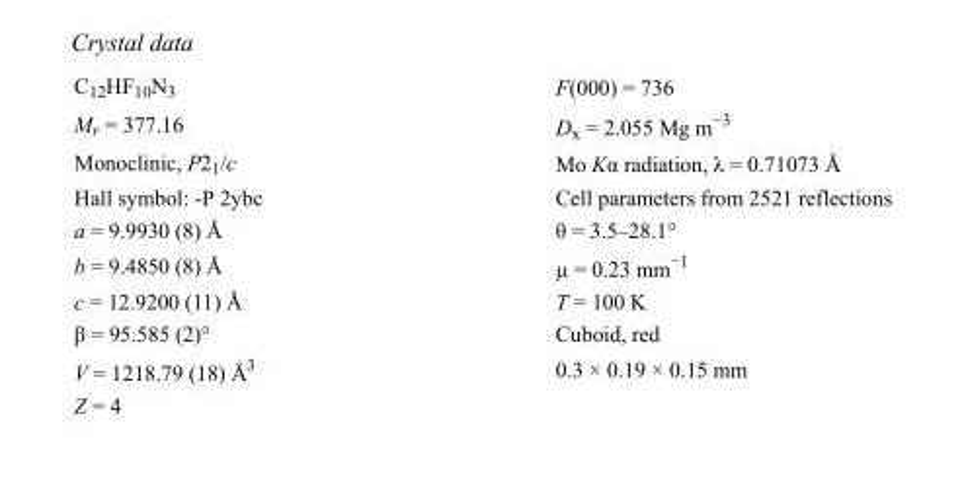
<table><tbody><tr><td>C<sub>12</sub>HF<sub>10</sub>N<sub>3</sub></td><td>F(000) = 736</td></tr><tr><td>M<sub>r</sub> = 377.16</td><td>D<sub>x</sub> = 2.055 Mg m<sup>−3</sup></td></tr><tr><td>Monoclinic, P2<sub>1</sub>/c</td><td>Mo Kα radiation, λ = 0.71073 Å</td></tr><tr><td>Hall symbol: -P 2ybc</td><td>Cell parameters from 2521 reflections</td></tr><tr><td>a = 9.9930 (8) Å</td><td>θ = 3.5–28.1°</td></tr><tr><td>b = 9.4850 (8) Å</td><td>µ = 0.23 mm<sup>−1</sup></td></tr><tr><td>c = 12.9200 (11) Å</td><td>T = 100 K</td></tr><tr><td>β = 95.585 (2)°</td><td>Cuboid, red</td></tr><tr><td>V = 1218.79 (18) Å<sup>3</sup></td><td>0.3 × 0.19 × 0.15 mm</td></tr><tr><td>Z = 4</td><td></td></tr></tbody></table>